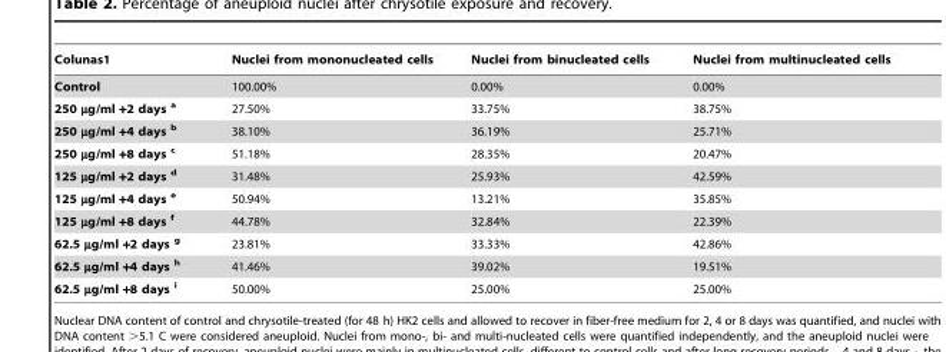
<table><thead><tr><td>Colunas1</td><td>Nuclei from mononucleated cells</td><td>Nuclei from binucleated cells</td><td>Nuclei from multinucleated cells</td></tr></thead><tbody><tr><td>Control</td><td>100.00%</td><td>0.00%</td><td>0.00%</td></tr><tr><td>250 µg/ml +2 days <sup>a</sup></td><td>27.50%</td><td>33.75%</td><td>38.75%</td></tr><tr><td>250 µg/ml +4 days <sup>b</sup></td><td>38.10%</td><td>36.19%</td><td>25.71%</td></tr><tr><td>250 µg/ml +8 days <sup>c</sup></td><td>51.18%</td><td>28.35%</td><td>20.47%</td></tr><tr><td>125 µg/ml +2 days <sup>d</sup></td><td>31.48%</td><td>25.93%</td><td>42.59%</td></tr><tr><td>125 µg/ml +4 days <sup>e</sup></td><td>50.94%</td><td>13.21%</td><td>35.85%</td></tr><tr><td>125 µg/ml +8 days <sup>f</sup></td><td>44.78%</td><td>32.84%</td><td>22.39%</td></tr><tr><td>62.5 µg/ml +2 days <sup>g</sup></td><td>23.81%</td><td>33.33%</td><td>42.86%</td></tr><tr><td>62.5 µg/ml +4 days <sup>h</sup></td><td>41.46%</td><td>39.02%</td><td>19.51%</td></tr><tr><td>62.5 µg/ml +8 days <sup>i</sup></td><td>50.00%</td><td>25.00%</td><td>25.00%</td></tr></tbody></table>